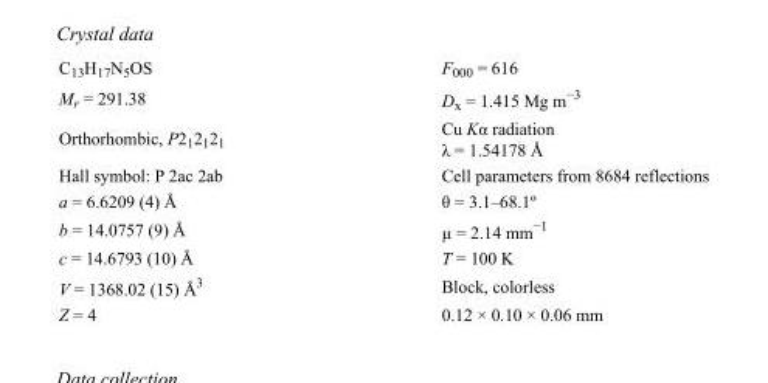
<table><tbody><tr><td>C<sub>13</sub>H<sub>17</sub>N<sub>5</sub>OS</td><td>F000 = 616</td></tr><tr><td>M<sub>r</sub> = 291.38</td><td>D<sub>x</sub> = 1.415 Mg m<sup>−3</sup></td></tr><tr><td>Orthorhombic, P2<sub>1</sub>2<sub>1</sub>2<sub>1</sub></td><td>Cu Kα radiation λ = 1.54178 Å</td></tr><tr><td>Hall symbol: P 2ac 2ab</td><td>Cell parameters from 8684 reflections</td></tr><tr><td>a = 6.6209 (4) Å</td><td>θ = 3.1–68.1º</td></tr><tr><td>b = 14.0757 (9) Å</td><td>µ = 2.14 mm<sup>−1</sup></td></tr><tr><td>c = 14.6793 (10) Å</td><td>T = 100 K</td></tr><tr><td>V = 1368.02 (15) Å<sup>3</sup></td><td>Block, colorless</td></tr><tr><td>Z = 4</td><td>0.12 × 0.10 × 0.06 mm</td></tr></tbody></table>